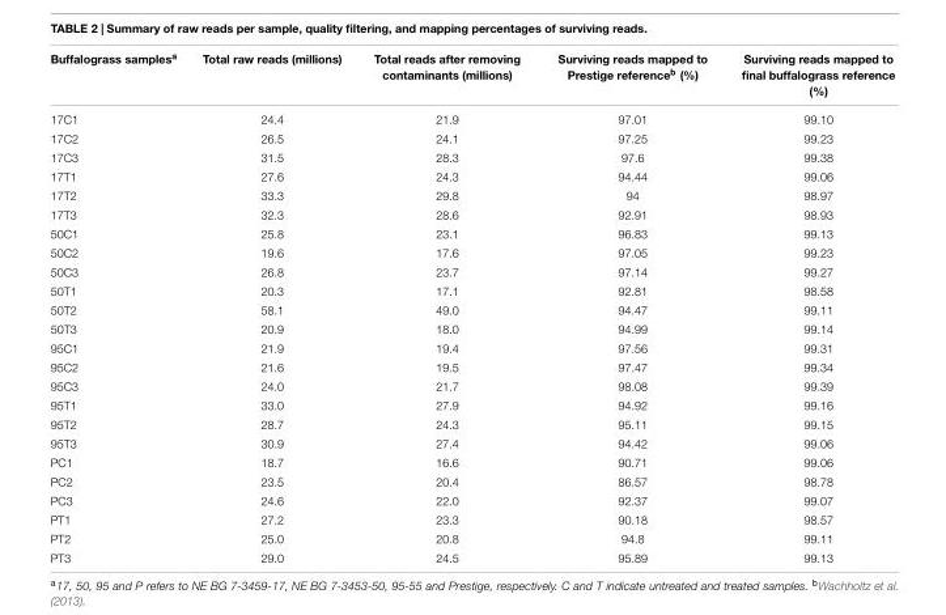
<table><thead><tr><td>Buffalograss samples<sup>a</sup></td><td>Total raw reads (millions)</td><td>Total reads after removing contaminants (millions)</td><td>Surviving reads mapped to Prestige reference<sup>b</sup> (%)</td><td>Surviving reads mapped to final buffalograss reference (%)</td></tr></thead><tbody><tr><td>17C1</td><td>24.4</td><td>21.9</td><td>97.01</td><td>99.10</td></tr><tr><td>17C2</td><td>26.5</td><td>24.1</td><td>97.25</td><td>99.23</td></tr><tr><td>17C3</td><td>31.5</td><td>28.3</td><td>97.6</td><td>99.38</td></tr><tr><td>17T1</td><td>27.6</td><td>24.3</td><td>94.44</td><td>99.06</td></tr><tr><td>17T2</td><td>33.3</td><td>29.8</td><td>94</td><td>98.97</td></tr><tr><td>17T3</td><td>32.3</td><td>28.6</td><td>92.91</td><td>98.93</td></tr><tr><td>50C1</td><td>25.8</td><td>23.1</td><td>96.83</td><td>99.13</td></tr><tr><td>50C2</td><td>19.6</td><td>17.6</td><td>97.05</td><td>99.23</td></tr><tr><td>50C3</td><td>26.8</td><td>23.7</td><td>97.14</td><td>99.27</td></tr><tr><td>50T1</td><td>20.3</td><td>17.1</td><td>92.81</td><td>98.58</td></tr><tr><td>50T2</td><td>58.1</td><td>49.0</td><td>94.47</td><td>99.11</td></tr><tr><td>50T3</td><td>20.9</td><td>18.0</td><td>94.99</td><td>99.14</td></tr><tr><td>95C1</td><td>21.9</td><td>19.4</td><td>97.56</td><td>99.31</td></tr><tr><td>95C2</td><td>21.6</td><td>19.5</td><td>97.47</td><td>99.34</td></tr><tr><td>95C3</td><td>24.0</td><td>21.7</td><td>98.08</td><td>99.39</td></tr><tr><td>95T1</td><td>33.0</td><td>27.9</td><td>94.92</td><td>99.16</td></tr><tr><td>95T2</td><td>28.7</td><td>24.3</td><td>95.11</td><td>99.15</td></tr><tr><td>95T3</td><td>30.9</td><td>27.4</td><td>94.42</td><td>99.06</td></tr><tr><td>PC1</td><td>18.7</td><td>16.6</td><td>90.71</td><td>99.06</td></tr><tr><td>PC2</td><td>23.5</td><td>20.4</td><td>86.57</td><td>98.78</td></tr><tr><td>PC3</td><td>24.6</td><td>22.0</td><td>92.37</td><td>99.07</td></tr><tr><td>PT1</td><td>27.2</td><td>23.3</td><td>90.18</td><td>98.57</td></tr><tr><td>PT2</td><td>25.0</td><td>20.8</td><td>94.8</td><td>99.11</td></tr><tr><td>PT3</td><td>29.0</td><td>24.5</td><td>95.89</td><td>99.13</td></tr></tbody></table>